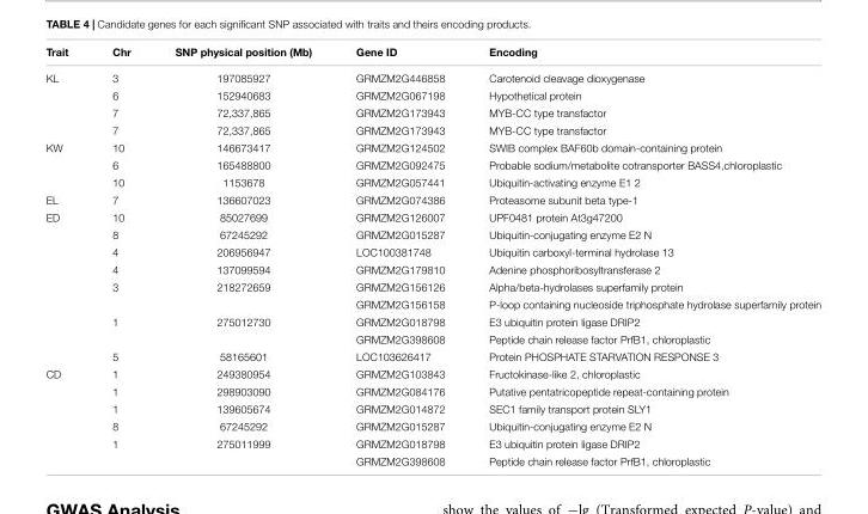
<table><thead><tr><td>Trait</td><td>Chr</td><td>SNP physical position (Mb)</td><td>Gene ID</td><td>Encoding</td></tr></thead><tbody><tr><td rowspan="4">KL</td><td>3</td><td>197085927</td><td>GRMZM2G446858</td><td>Carotenoid cleavage dioxygenase</td></tr><tr><td>6</td><td>152940683</td><td>GRMZM2G067198</td><td>Hypothetical protein</td></tr><tr><td>7</td><td>72,337,865</td><td>GRMZM2G173943</td><td>MYB-CC type transfactor</td></tr><tr><td>7</td><td>72,337,865</td><td>GRMZM2G173943</td><td>MYB-CC type transfactor</td></tr><tr><td rowspan="3">KW</td><td>10</td><td>146673417</td><td>GRMZM2G124502</td><td>SWIB complex BAF60b domain-containing protein</td></tr><tr><td>6</td><td>165488800</td><td>GRMZM2G092475</td><td>Probable sodium/metabolite cotransporter BASS4,chloroplastic</td></tr><tr><td>10</td><td>1153678</td><td>GRMZM2G057441</td><td>Ubiquitin-activating enzyme E1 2</td></tr><tr><td>EL</td><td>7</td><td>136607023</td><td>GRMZM2G074386</td><td>Proteasome subunit beta type-1</td></tr><tr><td rowspan="9">ED</td><td>10</td><td>85027699</td><td>GRMZM2G126007</td><td>UPF0481 protein At3g47200</td></tr><tr><td>8</td><td>67245292</td><td>GRMZM2G015287</td><td>Ubiquitin-conjugating enzyme E2 N</td></tr><tr><td>4</td><td>206956947</td><td>LOC100381748</td><td>Ubiquitin carboxyl-terminal hydrolase 13</td></tr><tr><td>4</td><td>137099594</td><td>GRMZM2G179810</td><td>Adenine phosphoribosyltransferase 2</td></tr><tr><td>3</td><td>218272659</td><td>GRMZM2G156126</td><td>Alpha/beta-hydrolases superfamily protein</td></tr><tr><td></td><td></td><td>GRMZM2G156158</td><td>P-loop containing nucleoside triphosphate hydrolase superfamily protein</td></tr><tr><td>1</td><td>275012730</td><td>GRMZM2G018798</td><td>E3 ubiquitin protein ligase DRIP2</td></tr><tr><td></td><td></td><td>GRMZM2G398608</td><td>Peptide chain release factor PrfB1, chloroplastic</td></tr><tr><td>5</td><td>58165601</td><td>LOC103626417</td><td>Protein PHOSPHATE STARVATION RESPONSE 3</td></tr><tr><td rowspan="6">CD</td><td>1</td><td>249380954</td><td>GRMZM2G103843</td><td>Fructokinase-like 2, chloroplastic</td></tr><tr><td>1</td><td>298903090</td><td>GRMZM2G084176</td><td>Putative pentatricopeptide repeat-containing protein</td></tr><tr><td>1</td><td>139605674</td><td>GRMZM2G014872</td><td>SEC1 family transport protein SLY1</td></tr><tr><td>8</td><td>67245292</td><td>GRMZM2G015287</td><td>Ubiquitin-conjugating enzyme E2 N</td></tr><tr><td>1</td><td>275011999</td><td>GRMZM2G018798</td><td>E3 ubiquitin protein ligase DRIP2</td></tr><tr><td></td><td></td><td>GRMZM2G398608</td><td>Peptide chain release factor PrfB1, chloroplastic</td></tr></tbody></table>